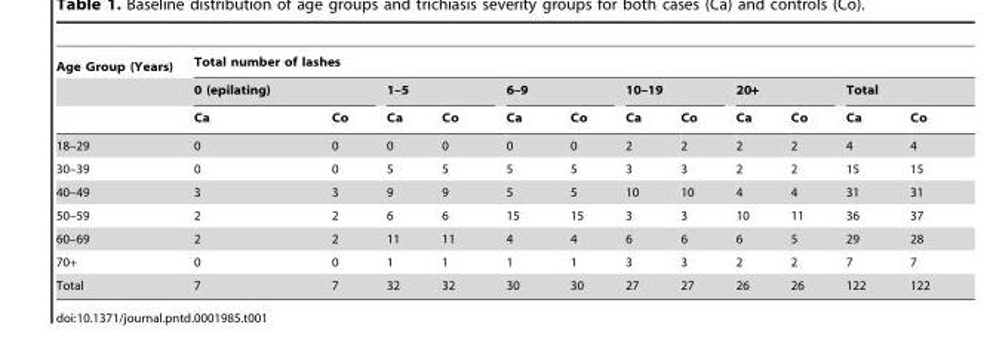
<table><thead><tr><td rowspan="3">Age Group (Years)</td><td colspan="12">Total number of lashes</td></tr><tr><td colspan="2">0 (epilating)</td><td colspan="2">1–5</td><td colspan="2">6–9</td><td colspan="2">10–19</td><td colspan="2">20+</td><td colspan="2">Total</td></tr><tr><td>Ca</td><td>Co</td><td>Ca</td><td>Co</td><td>Ca</td><td>Co</td><td>Ca</td><td>Co</td><td>Ca</td><td>Co</td><td>Ca</td><td>Co</td></tr></thead><tbody><tr><td>18–29</td><td>0</td><td>0</td><td>0</td><td>0</td><td>0</td><td>0</td><td>2</td><td>2</td><td>2</td><td>2</td><td>4</td><td>4</td></tr><tr><td>30–39</td><td>0</td><td>0</td><td>5</td><td>5</td><td>5</td><td>5</td><td>3</td><td>3</td><td>2</td><td>2</td><td>15</td><td>15</td></tr><tr><td>40–49</td><td>3</td><td>3</td><td>9</td><td>9</td><td>5</td><td>5</td><td>10</td><td>10</td><td>4</td><td>4</td><td>31</td><td>31</td></tr><tr><td>50–59</td><td>2</td><td>2</td><td>6</td><td>6</td><td>15</td><td>15</td><td>3</td><td>3</td><td>10</td><td>11</td><td>36</td><td>37</td></tr><tr><td>60–69</td><td>2</td><td>2</td><td>11</td><td>11</td><td>4</td><td>4</td><td>6</td><td>6</td><td>6</td><td>5</td><td>29</td><td>28</td></tr><tr><td>70+</td><td>0</td><td>0</td><td>1</td><td>1</td><td>1</td><td>1</td><td>3</td><td>3</td><td>2</td><td>2</td><td>7</td><td>7</td></tr><tr><td>Total</td><td>7</td><td>7</td><td>32</td><td>32</td><td>30</td><td>30</td><td>27</td><td>27</td><td>26</td><td>26</td><td>122</td><td>122</td></tr></tbody></table>